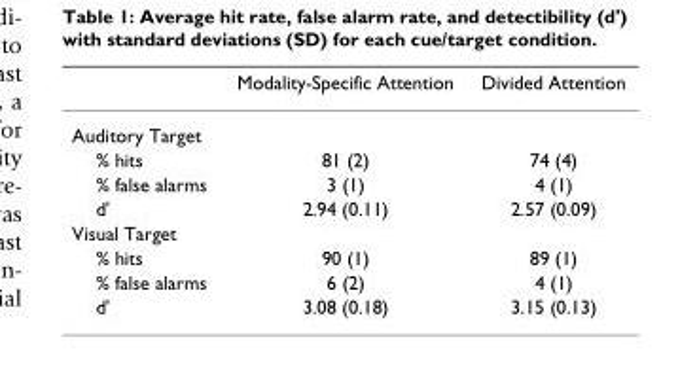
<table><thead><tr><td></td><td>Modality-Specific Attention</td><td>Divided Attention</td></tr></thead><tbody><tr><td colspan="3">Auditory Target</td></tr><tr><td>% hits</td><td>81 (2)</td><td>74 (4)</td></tr><tr><td>% false alarms</td><td>3 (1)</td><td>4 (1)</td></tr><tr><td>d&#x27;</td><td>2.94 (0.11)</td><td>2.57 (0.09)</td></tr><tr><td colspan="3">Visual Target</td></tr><tr><td>% hits</td><td>90 (1)</td><td>89 (1)</td></tr><tr><td>% false alarms</td><td>6 (2)</td><td>4 (1)</td></tr><tr><td>d&#x27;</td><td>3.08 (0.18)</td><td>3.15 (0.13)</td></tr></tbody></table>